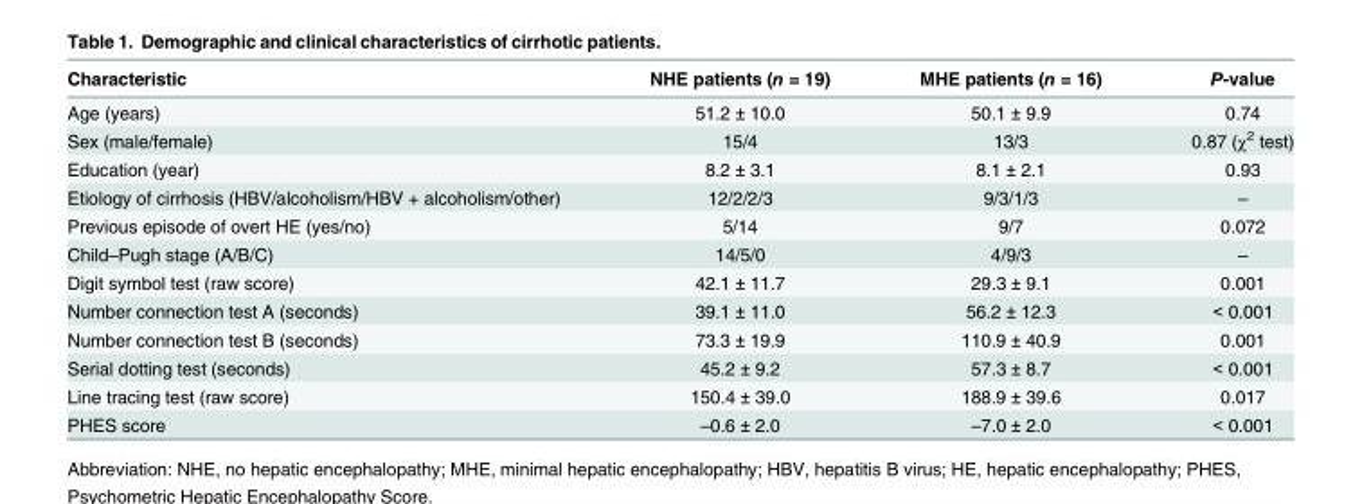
<table><thead><tr><td>Characteristic</td><td>NHE patients (n = 19)</td><td>MHE patients (n = 16)</td><td>P-value</td></tr></thead><tbody><tr><td>Age (years)</td><td>51.2 ± 10.0</td><td>50.1 ± 9.9</td><td>0.74</td></tr><tr><td>Sex (male/female)</td><td>15/4</td><td>13/3</td><td>0.87 (χ<sup>2</sup> test)</td></tr><tr><td>Education (year)</td><td>8.2 ± 3.1</td><td>8.1 ± 2.1</td><td>0.93</td></tr><tr><td>Etiology of cirrhosis (HBV/alcoholism/HBV + alcoholism/other)</td><td>12/2/2/3</td><td>9/3/1/3</td><td>–</td></tr><tr><td>Previous episode of overt HE (yes/no)</td><td>5/14</td><td>9/7</td><td>0.072</td></tr><tr><td>Child–Pugh stage (A/B/C)</td><td>14/5/0</td><td>4/9/3</td><td>–</td></tr><tr><td>Digit symbol test (raw score)</td><td>42.1 ± 11.7</td><td>29.3 ± 9.1</td><td>0.001</td></tr><tr><td>Number connection test A (seconds)</td><td>39.1 ± 11.0</td><td>56.2 ± 12.3</td><td>&lt; 0.001</td></tr><tr><td>Number connection test B (seconds)</td><td>73.3 ± 19.9</td><td>110.9 ± 40.9</td><td>0.001</td></tr><tr><td>Serial dotting test (seconds)</td><td>45.2 ± 9.2</td><td>57.3 ± 8.7</td><td>&lt; 0.001</td></tr><tr><td>Line tracing test (raw score)</td><td>150.4 ± 39.0</td><td>188.9 ± 39.6</td><td>0.017</td></tr><tr><td>PHES score</td><td>–0.6 ± 2.0</td><td>–7.0 ± 2.0</td><td>&lt; 0.001</td></tr></tbody></table>